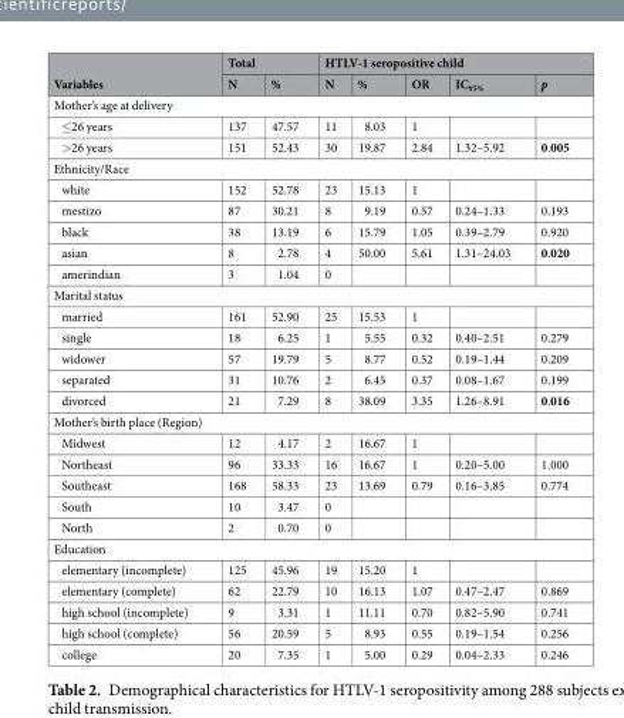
<table><thead><tr><td rowspan="2">Variables</td><td colspan="2">Total</td><td colspan="5">HTLV-1 seropositive child</td></tr><tr><td>N</td><td>%</td><td>N</td><td>%</td><td>OR</td><td>IC<sub>95%</sub></td><td>p</td></tr></thead><tbody><tr><td colspan="8">Mother’s age at delivery</td></tr><tr><td>≤26 years</td><td>137</td><td>47.57</td><td>11</td><td>8.03</td><td>1</td><td></td><td></td></tr><tr><td>&gt;26 years</td><td>151</td><td>52.43</td><td>30</td><td>19.87</td><td>2.84</td><td>1.32–5.92</td><td>0.005</td></tr><tr><td colspan="8">Ethnicity/Race</td></tr><tr><td>white</td><td>152</td><td>52.78</td><td>23</td><td>15.13</td><td>1</td><td></td><td></td></tr><tr><td>mestizo</td><td>87</td><td>30.21</td><td>8</td><td>9.19</td><td>0.57</td><td>0.24–1.33</td><td>0.193</td></tr><tr><td>black</td><td>38</td><td>13.19</td><td>6</td><td>15.79</td><td>1.05</td><td>0.39–2.79</td><td>0.920</td></tr><tr><td>asian</td><td>8</td><td>2.78</td><td>4</td><td>50.00</td><td>5.61</td><td>1.31–24.03</td><td>0.020</td></tr><tr><td>amerindian</td><td>3</td><td>1.04</td><td>0</td><td></td><td></td><td></td><td></td></tr><tr><td colspan="8">Marital status</td></tr><tr><td>married</td><td>161</td><td>52.90</td><td>25</td><td>15.53</td><td>1</td><td></td><td></td></tr><tr><td>single</td><td>18</td><td>6.25</td><td>1</td><td>5.55</td><td>0.32</td><td>0.40–2.51</td><td>0.279</td></tr><tr><td>widower</td><td>57</td><td>19.79</td><td>5</td><td>8.77</td><td>0.52</td><td>0.19–1.44</td><td>0.209</td></tr><tr><td>separated</td><td>31</td><td>10.76</td><td>2</td><td>6.45</td><td>0.37</td><td>0.08–1.67</td><td>0.199</td></tr><tr><td>divorced</td><td>21</td><td>7.29</td><td>8</td><td>38.09</td><td>3.35</td><td>1.26–8.91</td><td>0.016</td></tr><tr><td colspan="8">Mother’s birth place (Region)</td></tr><tr><td>Midwest</td><td>12</td><td>4.17</td><td>2</td><td>16.67</td><td>1</td><td></td><td></td></tr><tr><td>Northeast</td><td>96</td><td>33.33</td><td>16</td><td>16.67</td><td>1</td><td>0.20–5.00</td><td>1.000</td></tr><tr><td>Southeast</td><td>168</td><td>58.33</td><td>23</td><td>13.69</td><td>0.79</td><td>0.16–3.85</td><td>0.774</td></tr><tr><td>South</td><td>10</td><td>3.47</td><td>0</td><td></td><td></td><td></td><td></td></tr><tr><td>North</td><td>2</td><td>0.70</td><td>0</td><td></td><td></td><td></td><td></td></tr><tr><td colspan="8">Education</td></tr><tr><td>elementary (incomplete)</td><td>125</td><td>45.96</td><td>19</td><td>15.20</td><td>1</td><td></td><td></td></tr><tr><td>elementary (complete)</td><td>62</td><td>22.79</td><td>10</td><td>16.13</td><td>1.07</td><td>0.47–2.47</td><td>0.869</td></tr><tr><td>high school (incomplete)</td><td>9</td><td>3.31</td><td>1</td><td>11.11</td><td>0.70</td><td>0.82–5.90</td><td>0.741</td></tr><tr><td>high school (complete)</td><td>56</td><td>20.59</td><td>5</td><td>8.93</td><td>0.55</td><td>0.19–1.54</td><td>0.256</td></tr><tr><td>college</td><td>20</td><td>7.35</td><td>1</td><td>5.00</td><td>0.29</td><td>0.04–2.33</td><td>0.246</td></tr></tbody></table>